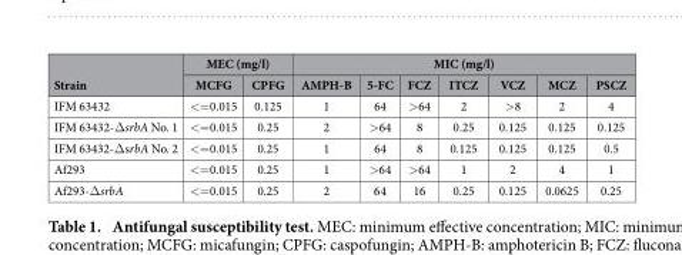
<table><thead><tr><td rowspan="2">Strain</td><td colspan="2">MEC (mg/l)</td><td colspan="7">MIC (mg/l)</td></tr><tr><td>MCFG</td><td>CPFG</td><td>AMPH-B</td><td>5-FC</td><td>FCZ</td><td>ITCZ</td><td>VCZ</td><td>MCZ</td><td>PSCZ</td></tr></thead><tbody><tr><td>IFM 63432</td><td>&lt; = 0.015</td><td>0.125</td><td>1</td><td>64</td><td>&gt; 64</td><td>2</td><td>&gt; 8</td><td>2</td><td>4</td></tr><tr><td>IFM 63432-Δ srbA No. 1</td><td>&lt; = 0.015</td><td>0.25</td><td>2</td><td>&gt; 64</td><td>8</td><td>0.25</td><td>0.125</td><td>0.125</td><td>0.125</td></tr><tr><td>IFM 63432-Δ srbA No. 2</td><td>&lt; = 0.015</td><td>0.25</td><td>1</td><td>64</td><td>8</td><td>0.125</td><td>0.125</td><td>0.125</td><td>0.5</td></tr><tr><td>Af293</td><td>&lt; = 0.015</td><td>0.25</td><td>1</td><td>&gt; 64</td><td>&gt; 64</td><td>1</td><td>2</td><td>4</td><td>1</td></tr><tr><td>Af293-Δ srbA</td><td>&lt; = 0.015</td><td>0.25</td><td>2</td><td>64</td><td>16</td><td>0.25</td><td>0.125</td><td>0.0625</td><td>0.25</td></tr></tbody></table>